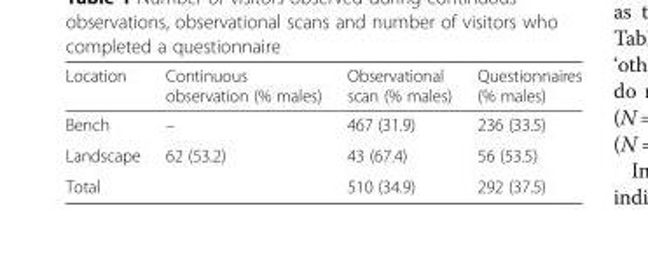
<table><thead><tr><td>Location</td><td>Continuous observation (% males)</td><td>Observational scan (% males)</td><td>Questionnaires (% males)</td></tr></thead><tbody><tr><td>Bench</td><td>–</td><td>467 (31.9)</td><td>236 (33.5)</td></tr><tr><td>Landscape</td><td>62 (53.2)</td><td>43 (67.4)</td><td>56 (53.5)</td></tr><tr><td>Total</td><td></td><td>510 (34.9)</td><td>292 (37.5)</td></tr></tbody></table>